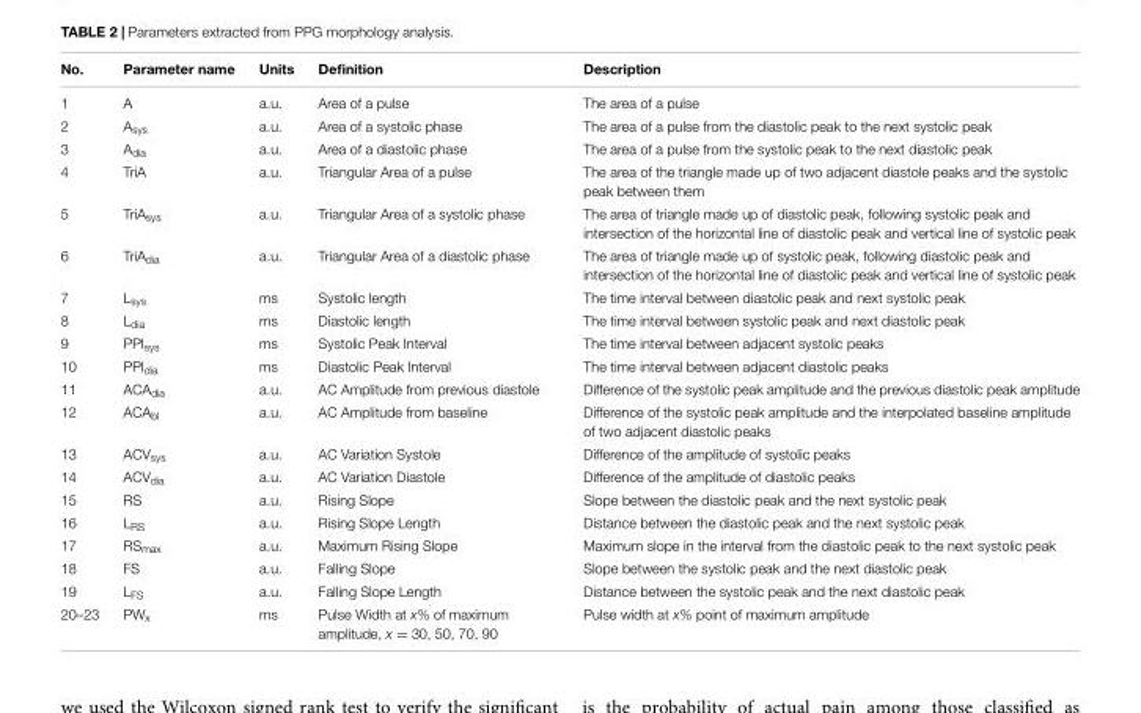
<table><thead><tr><td>No.</td><td>Parameter name</td><td>Units</td><td>Definition</td><td>Description</td></tr></thead><tbody><tr><td>1</td><td>A</td><td>a.u.</td><td>Area of a pulse</td><td>The area of a pulse</td></tr><tr><td>2</td><td>A<sub>sys</sub></td><td>a.u.</td><td>Area of a systolic phase</td><td>The area of a pulse from the diastolic peak to the next systolic peak</td></tr><tr><td>3</td><td>A<sub>dia</sub></td><td>a.u.</td><td>Area of a diastolic phase</td><td>The area of a pulse from the systolic peak to the next diastolic peak</td></tr><tr><td>4</td><td>TriA</td><td>a.u.</td><td>Triangular Area of a pulse</td><td>The area of the triangle made up of two adjacent diastole peaks and the systolic peak between them</td></tr><tr><td>5</td><td>TriA<sub>sys</sub></td><td>a.u.</td><td>Triangular Area of a systolic phase</td><td>The area of triangle made up of diastolic peak, following systolic peak and intersection of the horizontal line of diastolic peak and vertical line of systolic peak</td></tr><tr><td>6</td><td>TriA<sub>dia</sub></td><td>a.u.</td><td>Triangular Area of a diastolic phase</td><td>The area of triangle made up of systolic peak, following diastolic peak and intersection of the horizontal line of diastolic peak and vertical line of systolic peak</td></tr><tr><td>7</td><td>L<sub>sys</sub></td><td>ms</td><td>Systolic length</td><td>The time interval between diastolic peak and next systolic peak</td></tr><tr><td>8</td><td>L<sub>dia</sub></td><td>ms</td><td>Diastolic length</td><td>The time interval between systolic peak and next diastolic peak</td></tr><tr><td>9</td><td>PPI<sub>sys</sub></td><td>ms</td><td>Systolic Peak Interval</td><td>The time interval between adjacent systolic peaks</td></tr><tr><td>10</td><td>PPI<sub>dia</sub></td><td>ms</td><td>Diastolic Peak Interval</td><td>The time interval between adjacent diastolic peaks</td></tr><tr><td>11</td><td>ACA<sub>dia</sub></td><td>a.u.</td><td>AC Amplitude from previous diastole</td><td>Difference of the systolic peak amplitude and the previous diastolic peak amplitude</td></tr><tr><td>12</td><td>ACA<sub>bl</sub></td><td>a.u.</td><td>AC Amplitude from baseline</td><td>Difference of the systolic peak amplitude and the interpolated baseline amplitude of two adjacent diastolic peaks</td></tr><tr><td>13</td><td>ACV<sub>sys</sub></td><td>a.u.</td><td>AC Variation Systole</td><td>Difference of the amplitude of systolic peaks</td></tr><tr><td>14</td><td>ACV<sub>dia</sub></td><td>a.u.</td><td>AC Variation Diastole</td><td>Difference of the amplitude of diastolic peaks</td></tr><tr><td>15</td><td>RS</td><td>a.u.</td><td>Rising Slope</td><td>Slope between the diastolic peak and the next systolic peak</td></tr><tr><td>16</td><td>L<sub>RS</sub></td><td>a.u.</td><td>Rising Slope Length</td><td>Distance between the diastolic peak and the next systolic peak</td></tr><tr><td>17</td><td>RS<sub>max</sub></td><td>a.u.</td><td>Maximum Rising Slope</td><td>Maximum slope in the interval from the diastolic peak to the next systolic peak</td></tr><tr><td>18</td><td>FS</td><td>a.u.</td><td>Falling Slope</td><td>Slope between the systolic peak and the next diastolic peak</td></tr><tr><td>19</td><td>L<sub>FS</sub></td><td>a.u.</td><td>Falling Slope Length</td><td>Distance between the systolic peak and the next diastolic peak</td></tr><tr><td>20–23</td><td>PW<sub>x</sub></td><td>ms</td><td>Pulse Width at x% of maximum amplitude, x = 30, 50, 70, 90</td><td>Pulse width at x% point of maximum amplitude</td></tr></tbody></table>